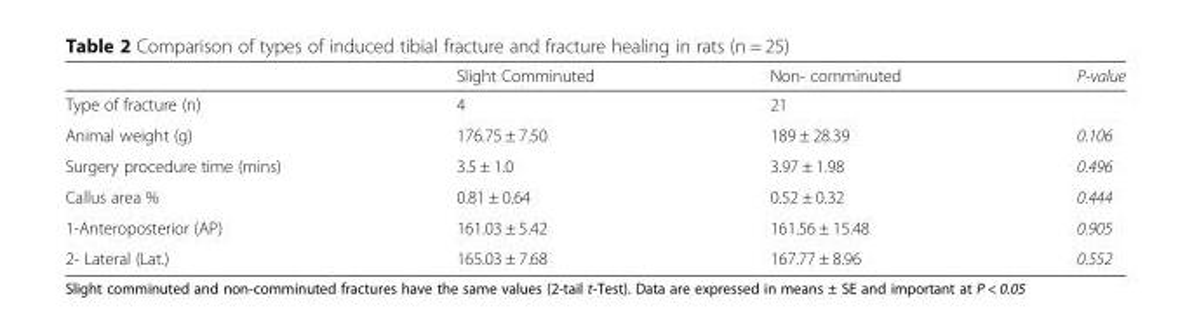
<table><thead><tr><td></td><td>Slight Comminuted</td><td>Non- comminuted</td><td>P-value</td></tr></thead><tbody><tr><td>Type of fracture (n)</td><td>4</td><td>21</td><td></td></tr><tr><td>Animal weight (g)</td><td>176.75 ± 7.50</td><td>189 ± 28.39</td><td>0.106</td></tr><tr><td>Surgery procedure time (mins)</td><td>3.5 ± 1.0</td><td>3.97 ± 1.98</td><td>0.496</td></tr><tr><td>Callus area %</td><td>0.81 ± 0.64</td><td>0.52 ± 0.32</td><td>0.444</td></tr><tr><td>1-Anteroposterior (AP)</td><td>161.03 ± 5.42</td><td>161.56 ± 15.48</td><td>0.905</td></tr><tr><td>2- Lateral (Lat.)</td><td>165.03 ± 7.68</td><td>167.77 ± 8.96</td><td>0.552</td></tr></tbody></table>